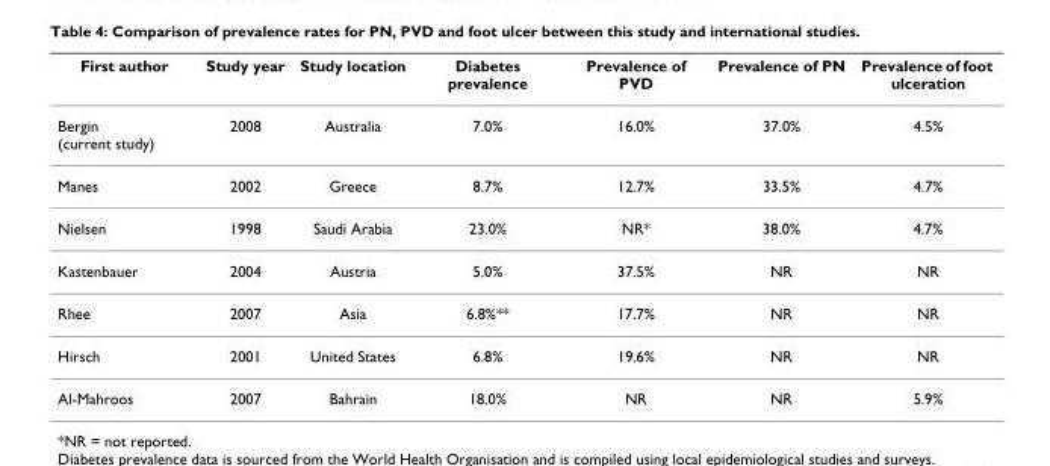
<table><thead><tr><td>First author</td><td>Study year</td><td>Study location</td><td>Diabetes prevalence</td><td>Prevalence of PVD</td><td>Prevalence of PN</td><td>Prevalence of foot ulceration</td></tr></thead><tbody><tr><td>Bergin (current study)</td><td>2008</td><td>Australia</td><td>7.0%</td><td>16.0%</td><td>37.0%</td><td>4.5%</td></tr><tr><td>Manes</td><td>2002</td><td>Greece</td><td>8.7%</td><td>12.7%</td><td>33.5%</td><td>4.7%</td></tr><tr><td>Nielsen</td><td>1998</td><td>Saudi Arabia</td><td>23.0%</td><td>NR*</td><td>38.0%</td><td>4.7%</td></tr><tr><td>Kastenbauer</td><td>2004</td><td>Austria</td><td>5.0%</td><td>37.5%</td><td>NR</td><td>NR</td></tr><tr><td>Rhee</td><td>2007</td><td>Asia</td><td>6.8%**</td><td>17.7%</td><td>NR</td><td>NR</td></tr><tr><td>Hirsch</td><td>2001</td><td>United States</td><td>6.8%</td><td>19.6%</td><td>NR</td><td>NR</td></tr><tr><td>Al-Mahroos</td><td>2007</td><td>Bahrain</td><td>18.0%</td><td>NR</td><td>NR</td><td>5.9%</td></tr></tbody></table>